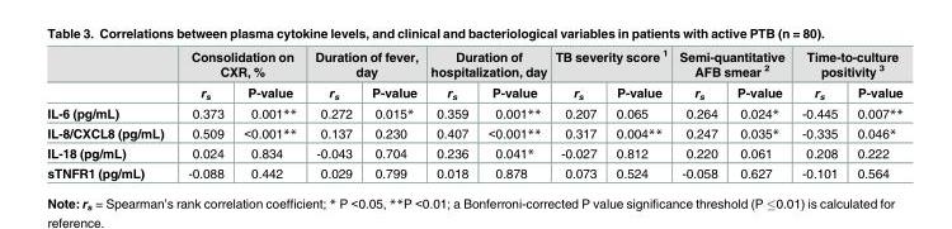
<table><thead><tr><td rowspan="2"></td><td colspan="2">Consolidation on CXR, %</td><td colspan="2">Duration of fever, day</td><td colspan="2">Duration of hospitalization, day</td><td colspan="2">TB severity score <sup>1</sup></td><td colspan="2">Semi-quantitative AFB smear <sup>2</sup></td><td colspan="2">Time-to-culture positivity <sup>3</sup></td></tr><tr><td>r<sub>s</sub></td><td>P-value</td><td>r<sub>s</sub></td><td>P-value</td><td>r<sub>s</sub></td><td>P-value</td><td>r<sub>s</sub></td><td>P-value</td><td>r<sub>s</sub></td><td>P-value</td><td>r<sub>s</sub></td><td>P-value</td></tr></thead><tbody><tr><td>IL-6 (pg/mL)</td><td>0.373</td><td>0.001**</td><td>0.272</td><td>0.015*</td><td>0.359</td><td>0.001**</td><td>0.207</td><td>0.065</td><td>0.264</td><td>0.024*</td><td>-0.445</td><td>0.007**</td></tr><tr><td>IL-8/CXCL8 (pg/mL)</td><td>0.509</td><td>&lt;0.001**</td><td>0.137</td><td>0.230</td><td>0.407</td><td>&lt;0.001**</td><td>0.317</td><td>0.004**</td><td>0.247</td><td>0.035*</td><td>-0.335</td><td>0.046*</td></tr><tr><td>IL-18 (pg/mL)</td><td>0.024</td><td>0.834</td><td>-0.043</td><td>0.704</td><td>0.236</td><td>0.041*</td><td>-0.027</td><td>0.812</td><td>0.220</td><td>0.061</td><td>0.208</td><td>0.222</td></tr><tr><td>sTNFR1 (pg/mL)</td><td>-0.088</td><td>0.442</td><td>0.029</td><td>0.799</td><td>0.018</td><td>0.878</td><td>0.073</td><td>0.524</td><td>-0.058</td><td>0.627</td><td>-0.101</td><td>0.564</td></tr></tbody></table>